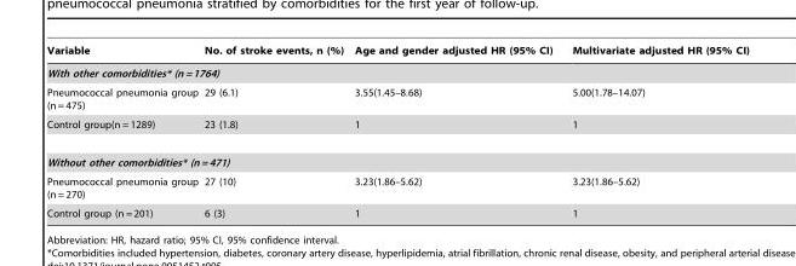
<table><thead><tr><td>Variable</td><td>No. of stroke events, n (%)</td><td>Age and gender adjusted HR (95% CI)</td><td>Multivariate adjusted HR (95% CI)</td></tr></thead><tbody><tr><td colspan="4">With other comorbidities* (n = 1764)</td></tr><tr><td>Pneumococcal pneumonia group (n = 475)</td><td>29 (6.1)</td><td>3.55(1.45–8.68)</td><td>5.00(1.78–14.07)</td></tr><tr><td>Control group(n = 1289)</td><td>23 (1.8)</td><td>1</td><td>1</td></tr><tr><td colspan="4">Without other comorbidities* (n = 471)</td></tr><tr><td>Pneumococcal pneumonia group (n = 270)</td><td>27 (10)</td><td>3.23(1.86–5.62)</td><td>3.23(1.86–5.62)</td></tr><tr><td>Control group (n = 201)</td><td>6 (3)</td><td>1</td><td>1</td></tr></tbody></table>